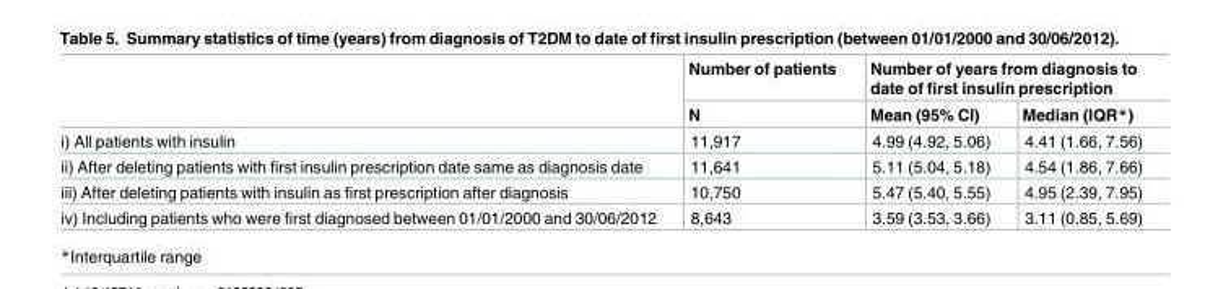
<table><thead><tr><td rowspan="2"></td><td rowspan="2">Number of patients N</td><td colspan="2">Number of years from diagnosis to date of first insulin prescription</td></tr><tr><td>Mean (95% CI)</td><td>Median (IQR*)</td></tr></thead><tbody><tr><td>i) All patients with insulin</td><td>11,917</td><td>4.99 (4.92, 5.06)</td><td>4.41 (1.66, 7.56)</td></tr><tr><td>ii) After deleting patients with first insulin prescription date same as diagnosis date</td><td>11,641</td><td>5.11 (5.04, 5.18)</td><td>4.54 (1.86, 7.66)</td></tr><tr><td>iii) After deleting patients with insulin as first prescription after diagnosis</td><td>10,750</td><td>5.47 (5.40, 5.55)</td><td>4.95 (2.39, 7.95)</td></tr><tr><td>iv) Including patients who were first diagnosed between 01/01/2000 and 30/06/2012</td><td>8,643</td><td>3.59 (3.53, 3.66)</td><td>3.11 (0.85, 5.69)</td></tr></tbody></table>